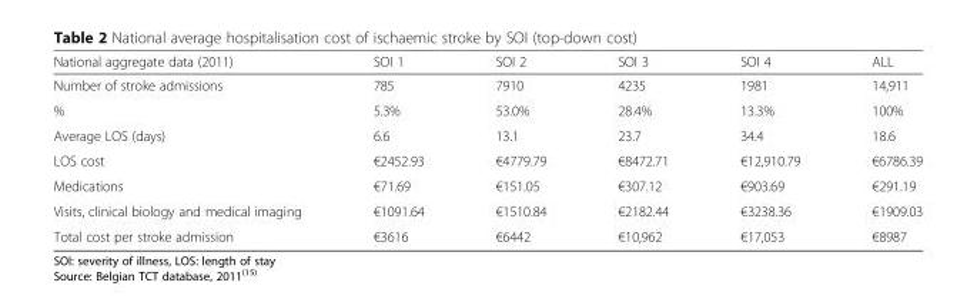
<table><thead><tr><td>National aggregate data (2011)</td><td>SOI 1</td><td>SOI 2</td><td>SOI 3</td><td>SOI 4</td><td>ALL</td></tr></thead><tbody><tr><td>Number of stroke admissions</td><td>785</td><td>7910</td><td>4235</td><td>1981</td><td>14,911</td></tr><tr><td>%</td><td>5.3%</td><td>53.0%</td><td>28.4%</td><td>13.3%</td><td>100%</td></tr><tr><td>Average LOS (days)</td><td>6.6</td><td>13.1</td><td>23.7</td><td>34.4</td><td>18.6</td></tr><tr><td>LOS cost</td><td>€2452.93</td><td>€4779.79</td><td>€8472.71</td><td>€12,910.79</td><td>€6786.39</td></tr><tr><td>Medications</td><td>€71.69</td><td>€151.05</td><td>€307.12</td><td>€903.69</td><td>€291.19</td></tr><tr><td>Visits, clinical biology and medical imaging</td><td>€1091.64</td><td>€1510.84</td><td>€2182.44</td><td>€3238.36</td><td>€1909.03</td></tr><tr><td>Total cost per stroke admission</td><td>€3616</td><td>€6442</td><td>€10,962</td><td>€17,053</td><td>€8987</td></tr></tbody></table>